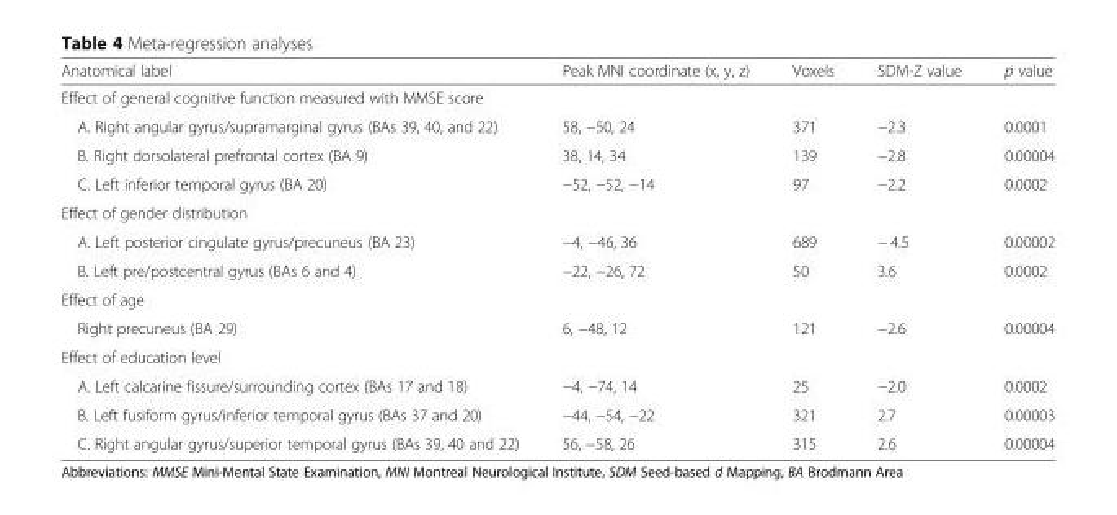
<table><thead><tr><td>Anatomical label</td><td>Peak MNI coordinate (x, y, z)</td><td>Voxels</td><td>SDM-Z value</td><td>p value</td></tr></thead><tbody><tr><td colspan="5">Effect of general cognitive function measured with MMSE score</td></tr><tr><td>A. Right angular gyrus/supramarginal gyrus (BAs 39, 40, and 22)</td><td>58, −50, 24</td><td>371</td><td>−2.3</td><td>0.0001</td></tr><tr><td>B. Right dorsolateral prefrontal cortex (BA 9)</td><td>38, 14, 34</td><td>139</td><td>−2.8</td><td>0.00004</td></tr><tr><td>C. Left inferior temporal gyrus (BA 20)</td><td>−52, −52, −14</td><td>97</td><td>−2.2</td><td>0.0002</td></tr><tr><td colspan="5">Effect of gender distribution</td></tr><tr><td>A. Left posterior cingulate gyrus/precuneus (BA 23)</td><td>−4, −46, 36</td><td>689</td><td>− 4.5</td><td>0.00002</td></tr><tr><td>B. Left pre/postcentral gyrus (BAs 6 and 4)</td><td>−22, −26, 72</td><td>50</td><td>3.6</td><td>0.0002</td></tr><tr><td colspan="5">Effect of age</td></tr><tr><td>Right precuneus (BA 29)</td><td>6, −48, 12</td><td>121</td><td>−2.6</td><td>0.00004</td></tr><tr><td colspan="5">Effect of education level</td></tr><tr><td>A. Left calcarine fissure/surrounding cortex (BAs 17 and 18)</td><td>−4, −74, 14</td><td>25</td><td>−2.0</td><td>0.0002</td></tr><tr><td>B. Left fusiform gyrus/inferior temporal gyrus (BAs 37 and 20)</td><td>−44, −54, −22</td><td>321</td><td>2.7</td><td>0.00003</td></tr><tr><td>C. Right angular gyrus/superior temporal gyrus (BAs 39, 40 and 22)</td><td>56, −58, 26</td><td>315</td><td>2.6</td><td>0.00004</td></tr></tbody></table>